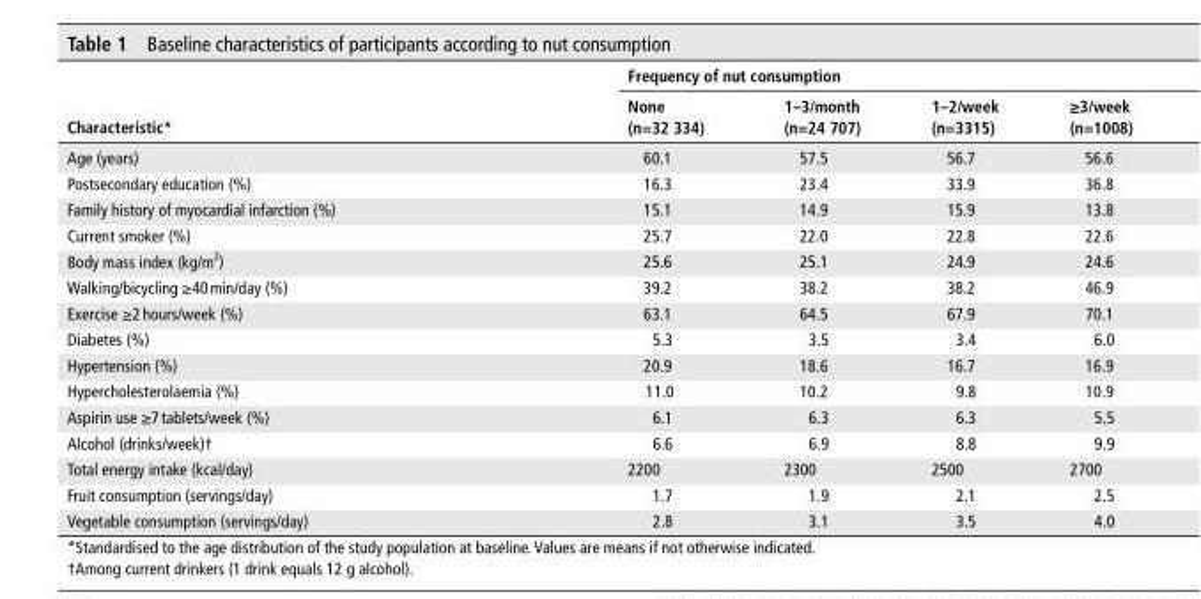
<table><thead><tr><td rowspan="2">Characteristic*</td><td colspan="4">Frequency of nut consumption</td></tr><tr><td>none (n=32 334)</td><td>1–3/month (n=24 707)</td><td>1–2/week (n=3315)</td><td>≥3/week (n=1008)</td></tr></thead><tbody><tr><td>Age (years)</td><td>60.1</td><td>57.5</td><td>56.7</td><td>56.6</td></tr><tr><td>Postsecondary education (%)</td><td>16.3</td><td>23.4</td><td>33.9</td><td>36.8</td></tr><tr><td>Family history of myocardial infarction (%)</td><td>15.1</td><td>14.9</td><td>15.9</td><td>13.8</td></tr><tr><td>Current smoker (%)</td><td>25.7</td><td>22.0</td><td>22.8</td><td>22.6</td></tr><tr><td>Body mass index (kg/m<sup>2</sup>)</td><td>25.6</td><td>25.1</td><td>24.9</td><td>24.6</td></tr><tr><td>Walking/bicycling ≥40 min/day (%)</td><td>39.2</td><td>38.2</td><td>38.2</td><td>46.9</td></tr><tr><td>Exercise ≥2 hours/week (%)</td><td>63.1</td><td>64.5</td><td>67.9</td><td>70.1</td></tr><tr><td>Diabetes (%)</td><td>5.3</td><td>3.5</td><td>3.4</td><td>6.0</td></tr><tr><td>Hypertension (%)</td><td>20.9</td><td>18.6</td><td>16.7</td><td>16.9</td></tr><tr><td>Hypercholesterolaemia (%)</td><td>11.0</td><td>10.2</td><td>9.8</td><td>10.9</td></tr><tr><td>Aspirin use ≥7 tablets/week (%)</td><td>6.1</td><td>6.3</td><td>6.3</td><td>5.5</td></tr><tr><td>Alcohol (drinks/week)†</td><td>6.6</td><td>6.9</td><td>8.8</td><td>9.9</td></tr><tr><td>Total energy intake (kcal/day)</td><td>2200</td><td>2300</td><td>2500</td><td>2700</td></tr><tr><td>Fruit consumption (servings/day)</td><td>1.7</td><td>1.9</td><td>2.1</td><td>2.5</td></tr><tr><td>Vegetable consumption (servings/day)</td><td>2.8</td><td>3.1</td><td>3.5</td><td>4.0</td></tr></tbody></table>